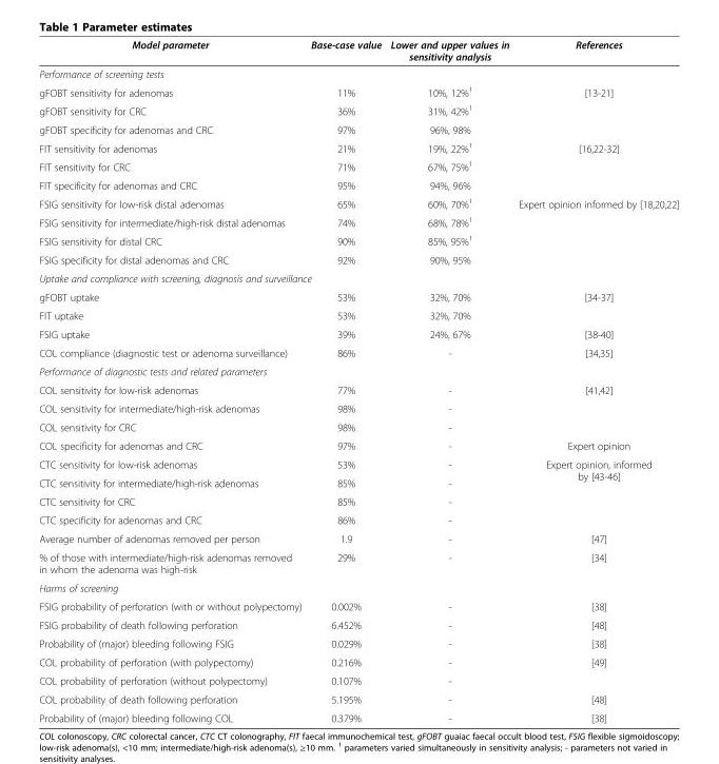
<table><thead><tr><td>Model parameter</td><td>Base-case value</td><td>Lower and upper values in sensitivity analysis</td><td>References</td></tr></thead><tbody><tr><td colspan="4">Performance of screening tests</td></tr><tr><td>gFOBT sensitivity for adenomas</td><td>11%</td><td>10%, 12%<sup>1</sup></td><td rowspan="3">[13-21]</td></tr><tr><td>gFOBT sensitivity for CRC</td><td>36%</td><td>31%, 42%<sup>1</sup></td></tr><tr><td>gFOBT specificity for adenomas and CRC</td><td>97%</td><td>96%, 98%</td></tr><tr><td>FIT sensitivity for adenomas</td><td>21%</td><td>19%, 22%<sup>1</sup></td><td rowspan="3">[16,22-32]</td></tr><tr><td>FIT sensitivity for CRC</td><td>71%</td><td>67%, 75%<sup>1</sup></td></tr><tr><td>FIT specificity for adenomas and CRC</td><td>95%</td><td>94%, 96%</td></tr><tr><td>FSIG sensitivity for low-risk distal adenomas</td><td>65%</td><td>60%, 70%<sup>1</sup></td><td rowspan="4">Expert opinion informed by [18,20,22]</td></tr><tr><td>FSIG sensitivity for intermediate/high-risk distal adenomas</td><td>74%</td><td>68%, 78%<sup>1</sup></td></tr><tr><td>FSIG sensitivity for distal CRC</td><td>90%</td><td>85%, 95%<sup>1</sup></td></tr><tr><td>FSIG specificity for distal adenomas and CRC</td><td>92%</td><td>90%, 95%</td></tr><tr><td colspan="4">Uptake and compliance with screening, diagnosis and surveillance</td></tr><tr><td>gFOBT uptake</td><td>53%</td><td>32%, 70%</td><td rowspan="2">[34-37]</td></tr><tr><td>FIT uptake</td><td>53%</td><td>32%, 70%</td></tr><tr><td>FSIG uptake</td><td>39%</td><td>24%, 67%</td><td>[38-40]</td></tr><tr><td>COL compliance (diagnostic test or adenoma surveillance)</td><td>86%</td><td>-</td><td>[34,35]</td></tr><tr><td colspan="4">Performance of diagnostic tests and related parameters</td></tr><tr><td>COL sensitivity for low-risk adenomas</td><td>77%</td><td>-</td><td rowspan="3">[41,42]</td></tr><tr><td>COL sensitivity for intermediate/high-risk adenomas</td><td>98%</td><td>-</td></tr><tr><td>COL sensitivity for CRC</td><td>98%</td><td>-</td></tr><tr><td>COL specificity for adenomas and CRC</td><td>97%</td><td>-</td><td>Expert opinion</td></tr><tr><td>CTC sensitivity for low-risk adenomas</td><td>53%</td><td>-</td><td rowspan="4">Expert opinion, informed by [43-46]</td></tr><tr><td>CTC sensitivity for intermediate/high-risk adenomas</td><td>85%</td><td>-</td></tr><tr><td>CTC sensitivity for CRC</td><td>85%</td><td>-</td></tr><tr><td>CTC specificity for adenomas and CRC</td><td>86%</td><td>-</td></tr><tr><td>Average number of adenomas removed per person</td><td>1.9</td><td>-</td><td>[47]</td></tr><tr><td>% of those with intermediate/high-risk adenomas removed in whom the adenoma was high-risk</td><td>29%</td><td>-</td><td>[34]</td></tr><tr><td colspan="4">Harms of screening</td></tr><tr><td>FSIG probability of perforation (with or without polypectomy)</td><td>0.002%</td><td>-</td><td>[38]</td></tr><tr><td>FSIG probability of death following perforation</td><td>6.452%</td><td>-</td><td>[48]</td></tr><tr><td>Probability of (major) bleeding following FSIG</td><td>0.029%</td><td>-</td><td>[38]</td></tr><tr><td>COL probability of perforation (with polypectomy)</td><td>0.216%</td><td>-</td><td rowspan="2">[49]</td></tr><tr><td>COL probability of perforation (without polypectomy)</td><td>0.107%</td><td>-</td></tr><tr><td>COL probability of death following perforation</td><td>5.195%</td><td>-</td><td>[48]</td></tr><tr><td>Probability of (major) bleeding following COL</td><td>0.379%</td><td>-</td><td>[38]</td></tr></tbody></table>